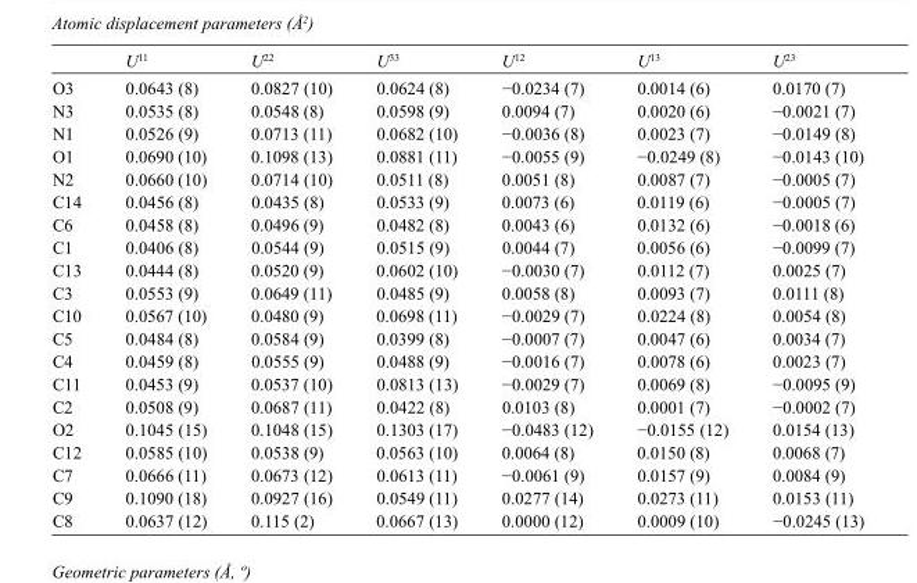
<table><thead><tr><td></td><td>U<sup>11</sup></td><td>U<sup>22</sup></td><td>U<sup>33</sup></td><td>U<sup>12</sup></td><td>U<sup>13</sup></td><td>U<sup>23</sup></td></tr></thead><tbody><tr><td>O3</td><td>0.0643 (8)</td><td>0.0827 (10)</td><td>0.0624 (8)</td><td>−0.0234 (7)</td><td>0.0014 (6)</td><td>0.0170 (7)</td></tr><tr><td>N3</td><td>0.0535 (8)</td><td>0.0548 (8)</td><td>0.0598 (9)</td><td>0.0094 (7)</td><td>0.0020 (6)</td><td>−0.0021 (7)</td></tr><tr><td>N1</td><td>0.0526 (9)</td><td>0.0713 (11)</td><td>0.0682 (10)</td><td>−0.0036 (8)</td><td>0.0023 (7)</td><td>−0.0149 (8)</td></tr><tr><td>O1</td><td>0.0690 (10)</td><td>0.1098 (13)</td><td>0.0881 (11)</td><td>−0.0055 (9)</td><td>−0.0249 (8)</td><td>−0.0143 (10)</td></tr><tr><td>N2</td><td>0.0660 (10)</td><td>0.0714 (10)</td><td>0.0511 (8)</td><td>0.0051 (8)</td><td>0.0087 (7)</td><td>−0.0005 (7)</td></tr><tr><td>C14</td><td>0.0456 (8)</td><td>0.0435 (8)</td><td>0.0533 (9)</td><td>0.0073 (6)</td><td>0.0119 (6)</td><td>−0.0005 (7)</td></tr><tr><td>C6</td><td>0.0458 (8)</td><td>0.0496 (9)</td><td>0.0482 (8)</td><td>0.0043 (6)</td><td>0.0132 (6)</td><td>−0.0018 (6)</td></tr><tr><td>C1</td><td>0.0406 (8)</td><td>0.0544 (9)</td><td>0.0515 (9)</td><td>0.0044 (7)</td><td>0.0056 (6)</td><td>−0.0099 (7)</td></tr><tr><td>C13</td><td>0.0444 (8)</td><td>0.0520 (9)</td><td>0.0602 (10)</td><td>−0.0030 (7)</td><td>0.0112 (7)</td><td>0.0025 (7)</td></tr><tr><td>C3</td><td>0.0553 (9)</td><td>0.0649 (11)</td><td>0.0485 (9)</td><td>0.0058 (8)</td><td>0.0093 (7)</td><td>0.0111 (8)</td></tr><tr><td>C10</td><td>0.0567 (10)</td><td>0.0480 (9)</td><td>0.0698 (11)</td><td>−0.0029 (7)</td><td>0.0224 (8)</td><td>0.0054 (8)</td></tr><tr><td>C5</td><td>0.0484 (8)</td><td>0.0584 (9)</td><td>0.0399 (8)</td><td>−0.0007 (7)</td><td>0.0047 (6)</td><td>0.0034 (7)</td></tr><tr><td>C4</td><td>0.0459 (8)</td><td>0.0555 (9)</td><td>0.0488 (9)</td><td>−0.0016 (7)</td><td>0.0078 (6)</td><td>0.0023 (7)</td></tr><tr><td>C11</td><td>0.0453 (9)</td><td>0.0537 (10)</td><td>0.0813 (13)</td><td>−0.0029 (7)</td><td>0.0069 (8)</td><td>−0.0095 (9)</td></tr><tr><td>C2</td><td>0.0508 (9)</td><td>0.0687 (11)</td><td>0.0422 (8)</td><td>0.0103 (8)</td><td>0.0001 (7)</td><td>−0.0002 (7)</td></tr><tr><td>O2</td><td>0.1045 (15)</td><td>0.1048 (15)</td><td>0.1303 (17)</td><td>−0.0483 (12)</td><td>−0.0155 (12)</td><td>0.0154 (13)</td></tr><tr><td>C12</td><td>0.0585 (10)</td><td>0.0538 (9)</td><td>0.0563 (10)</td><td>0.0064 (8)</td><td>0.0150 (8)</td><td>0.0068 (7)</td></tr><tr><td>C7</td><td>0.0666 (11)</td><td>0.0673 (12)</td><td>0.0613 (11)</td><td>−0.0061 (9)</td><td>0.0157 (9)</td><td>0.0084 (9)</td></tr><tr><td>C9</td><td>0.1090 (18)</td><td>0.0927 (16)</td><td>0.0549 (11)</td><td>0.0277 (14)</td><td>0.0273 (11)</td><td>0.0153 (11)</td></tr><tr><td>C8</td><td>0.0637 (12)</td><td>0.115 (2)</td><td>0.0667 (13)</td><td>0.0000 (12)</td><td>0.0009 (10)</td><td>−0.0245 (13)</td></tr></tbody></table>